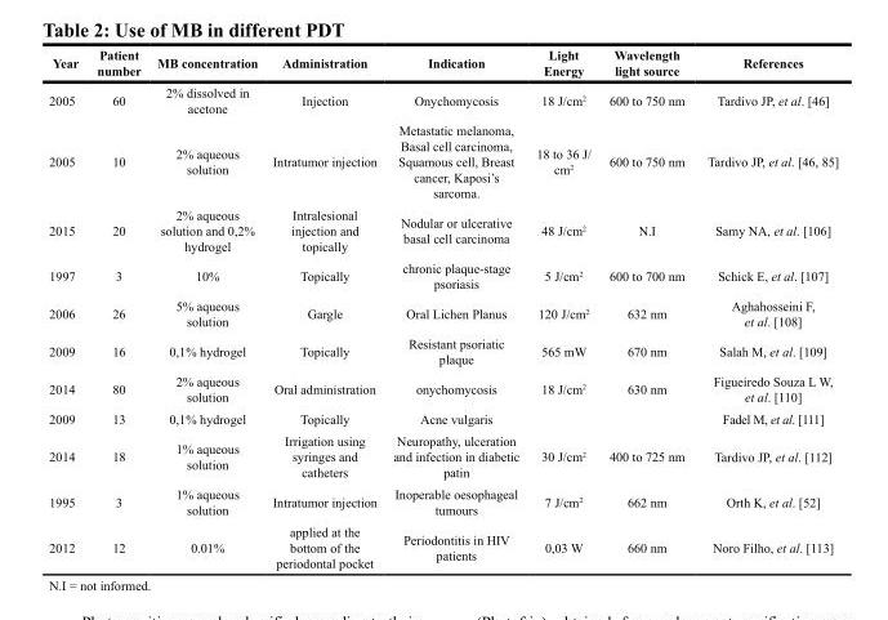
<table><thead><tr><td>Year</td><td>Patient number</td><td>MB concentration</td><td>Administration</td><td>Indication</td><td>Light Energy</td><td>Wavelength light source</td><td>References</td></tr></thead><tbody><tr><td>2005</td><td>60</td><td>2% dissolved in acetone</td><td>Injection</td><td>Onychomycosis</td><td>18 J/cm<sup>2</sup></td><td>600 to 750 nm</td><td>Tardivo JP, et al. [46]</td></tr><tr><td>2005</td><td>10</td><td>2% aqueous solution</td><td>Intratumor injection</td><td>Metastatic melanoma, Basal cell carcinoma, Squamous cell, Breast cancer, Kaposi’s sarcoma.</td><td>18 to 36 J/ cm<sup>2</sup></td><td>600 to 750 nm</td><td>Tardivo JP, et al. [46, 85]</td></tr><tr><td>2015</td><td>20</td><td>2% aqueous solution and 0,2% hydrogel</td><td>Intralesional injection and topically</td><td>Nodular or ulcerative basal cell carcinoma</td><td>48 J/cm<sup>2</sup></td><td>N.I</td><td>Samy NA, et al. [106]</td></tr><tr><td>1997</td><td>3</td><td>10%</td><td>Topically</td><td>chronic plaque-stage psoriasis</td><td>5 J/cm<sup>2</sup></td><td>600 to 700 nm</td><td>Schick E, et al. [107]</td></tr><tr><td>2006</td><td>26</td><td>5% aqueous solution</td><td>Gargle</td><td>Oral Lichen Planus</td><td>120 J/cm<sup>2</sup></td><td>632 nm</td><td>Aghahosseini F, et al. [108]</td></tr><tr><td>2009</td><td>16</td><td>0,1% hydrogel</td><td>Topically</td><td>Resistant psoriatic plaque</td><td>565 mW</td><td>670 nm</td><td>Salah M, et al. [109]</td></tr><tr><td>2014</td><td>80</td><td>2% aqueous solution</td><td>Oral administration</td><td>onychomycosis</td><td>18 J/cm<sup>2</sup></td><td>630 nm</td><td>Figueiredo Souza L W, et al. [110]</td></tr><tr><td>2009</td><td>13</td><td>0,1% hydrogel</td><td>Topically</td><td>Acne vulgaris</td><td></td><td></td><td>Fadel M, et al. [111]</td></tr><tr><td>2014</td><td>18</td><td>1% aqueous solution</td><td>Irrigation using syringes and catheters</td><td>Neuropathy, ulceration and infection in diabetic patin</td><td>30 J/cm<sup>2</sup></td><td>400 to 725 nm</td><td>Tardivo JP, et al. [112]</td></tr><tr><td>1995</td><td>3</td><td>1% aqueous solution</td><td>Intratumor injection</td><td>Inoperable oesophageal tumours</td><td>7 J/cm<sup>2</sup></td><td>662 nm</td><td>Orth K, et al. [52]</td></tr><tr><td>2012</td><td>12</td><td>0.01%</td><td>applied at the bottom of the periodontal pocket</td><td>Periodontitis in HIV patients</td><td>0,03 W</td><td>660 nm</td><td>Noro Filho, et al. [113]</td></tr></tbody></table>